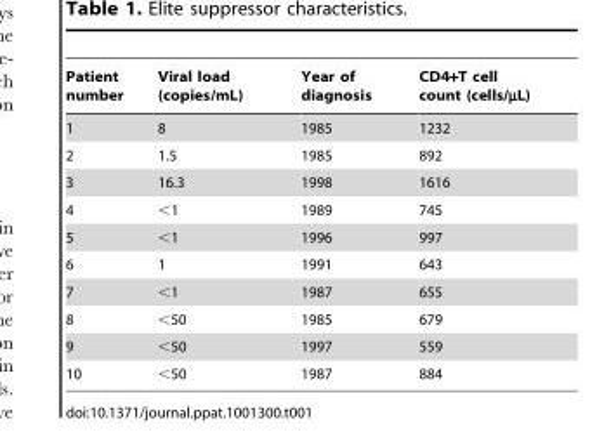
<table><thead><tr><td>Patient number</td><td>Viral load (copies/mL)</td><td>Year of diagnosis</td><td>CD4+T cell count (cells/µL)</td></tr></thead><tbody><tr><td>1</td><td>8</td><td>1985</td><td>1232</td></tr><tr><td>2</td><td>1.5</td><td>1985</td><td>892</td></tr><tr><td>3</td><td>16.3</td><td>1998</td><td>1616</td></tr><tr><td>4</td><td>&lt;1</td><td>1989</td><td>745</td></tr><tr><td>5</td><td>&lt;1</td><td>1996</td><td>997</td></tr><tr><td>6</td><td>1</td><td>1991</td><td>643</td></tr><tr><td>7</td><td>&lt;1</td><td>1987</td><td>655</td></tr><tr><td>8</td><td>&lt;50</td><td>1985</td><td>679</td></tr><tr><td>9</td><td>&lt;50</td><td>1997</td><td>559</td></tr><tr><td>10</td><td>&lt;50</td><td>1987</td><td>884</td></tr></tbody></table>